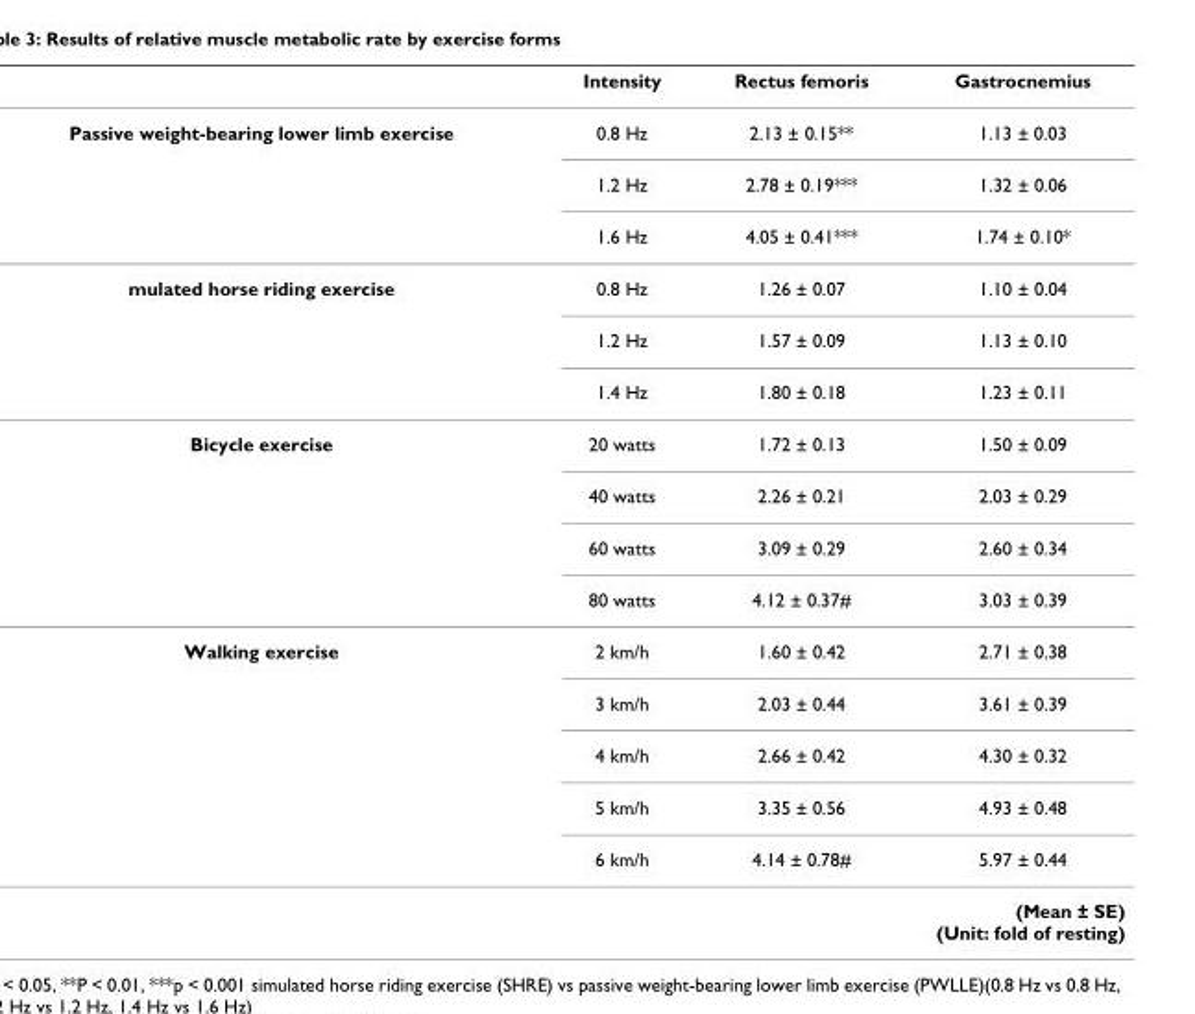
<table><thead><tr><td></td><td>Intensity</td><td>Rectus femoris</td><td>Gastrocnemius</td></tr></thead><tbody><tr><td rowspan="3">Passive weight-bearing lower limb exercise</td><td>0.8 Hz</td><td>2.13 ± 0.15**</td><td>1.13 ± 0.03</td></tr><tr><td>1.2 Hz</td><td>2.78 ± 0.19***</td><td>1.32 ± 0.06</td></tr><tr><td>1.6 Hz</td><td>4.05 ± 0.41***</td><td>1.74 ± 0.10*</td></tr><tr><td rowspan="3">mulated horse riding exercise</td><td>0.8 Hz</td><td>1.26 ± 0.07</td><td>1.10 ± 0.04</td></tr><tr><td>1.2 Hz</td><td>1.57 ± 0.09</td><td>1.13 ± 0.10</td></tr><tr><td>1.4 Hz</td><td>1.80 ± 0.18</td><td>1.23 ± 0.11</td></tr><tr><td rowspan="4">Bicycle exercise</td><td>20 watts</td><td>1.72 ± 0.13</td><td>1.50 ± 0.09</td></tr><tr><td>40 watts</td><td>2.26 ± 0.21</td><td>2.03 ± 0.29</td></tr><tr><td>60 watts</td><td>3.09 ± 0.29</td><td>2.60 ± 0.34</td></tr><tr><td>80 watts</td><td>4.12 ± 0.37#</td><td>3.03 ± 0.39</td></tr><tr><td rowspan="5">Walking exercise</td><td>2 km/h</td><td>1.60 ± 0.42</td><td>2.71 ± 0.38</td></tr><tr><td>3 km/h</td><td>2.03 ± 0.44</td><td>3.61 ± 0.39</td></tr><tr><td>4 km/h</td><td>2.66 ± 0.42</td><td>4.30 ± 0.32</td></tr><tr><td>5 km/h</td><td>3.35 ± 0.56</td><td>4.93 ± 0.48</td></tr><tr><td>6 km/h</td><td>4.14 ± 0.78#</td><td>5.97 ± 0.44</td></tr><tr><td colspan="4">(Mean ± SE) (Unit: fold of resting)</td></tr></tbody></table>